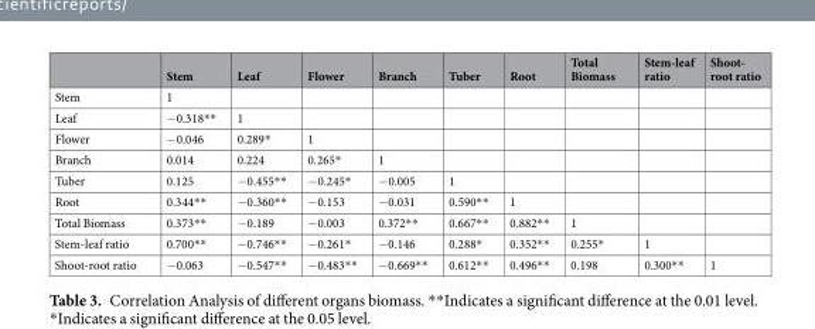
<table><thead><tr><td></td><td>Stem</td><td>Leaf</td><td>Flower</td><td>Branch</td><td>Tuber</td><td>Root</td><td>Total Biomass</td><td>Stem-leaf ratio</td><td>Shoot- root ratio</td></tr></thead><tbody><tr><td>Stem</td><td>1</td><td></td><td></td><td></td><td></td><td></td><td></td><td></td><td></td></tr><tr><td>Leaf</td><td>−0.318**</td><td>1</td><td></td><td></td><td></td><td></td><td></td><td></td><td></td></tr><tr><td>Flower</td><td>−0.046</td><td>0.289*</td><td>1</td><td></td><td></td><td></td><td></td><td></td><td></td></tr><tr><td>Branch</td><td>0.014</td><td>0.224</td><td>0.265*</td><td>1</td><td></td><td></td><td></td><td></td><td></td></tr><tr><td>Tuber</td><td>0.125</td><td>−0.455**</td><td>−0.245*</td><td>−0.005</td><td>1</td><td></td><td></td><td></td><td></td></tr><tr><td>Root</td><td>0.344**</td><td>−0.360**</td><td>−0.153</td><td>−0.031</td><td>0.590**</td><td>1</td><td></td><td></td><td></td></tr><tr><td>Total Biomass</td><td>0.373**</td><td>−0.189</td><td>−0.003</td><td>0.372**</td><td>0.667**</td><td>0.882**</td><td>1</td><td></td><td></td></tr><tr><td>Stem-leaf ratio</td><td>0.700**</td><td>−0.746**</td><td>−0.261*</td><td>−0.146</td><td>0.288*</td><td>0.352**</td><td>0.255*</td><td>1</td><td></td></tr><tr><td>Shoot-root ratio</td><td>−0.063</td><td>−0.547**</td><td>−0.483**</td><td>−0.669**</td><td>0.612**</td><td>0.496**</td><td>0.198</td><td>0.300**</td><td>1</td></tr></tbody></table>